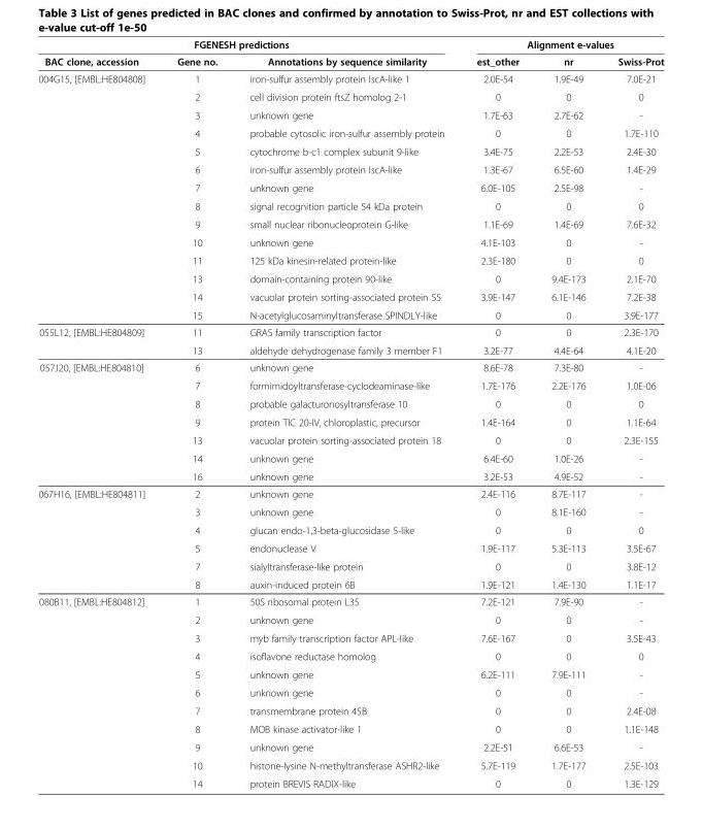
<table><thead><tr><td colspan="3">FGENESH predictions</td><td colspan="3">Alignment e-values</td></tr><tr><td>BAC clone, accession</td><td>Gene no.</td><td>Annotations by sequence similarity</td><td>est_other</td><td>nr</td><td>Swiss-Prot</td></tr></thead><tbody><tr><td rowspan="14">004G15, [EMBL:HE804808]</td><td>1</td><td>iron-sulfur assembly protein IscA-like 1</td><td>2.0E-54</td><td>1.9E-49</td><td>7.0E-21</td></tr><tr><td>2</td><td>cell division protein ftsZ homolog 2-1</td><td>0</td><td>0</td><td>0</td></tr><tr><td>3</td><td>unknown gene</td><td>1.7E-63</td><td>2.7E-62</td><td>-</td></tr><tr><td>4</td><td>probable cytosolic iron-sulfur assembly protein</td><td>0</td><td>0</td><td>1.7E-110</td></tr><tr><td>5</td><td>cytochrome b-c1 complex subunit 9-like</td><td>3.4E-75</td><td>2.2E-53</td><td>2.4E-30</td></tr><tr><td>6</td><td>iron-sulfur assembly protein IscA-like</td><td>1.3E-67</td><td>6.5E-60</td><td>1.4E-29</td></tr><tr><td>7</td><td>unknown gene</td><td>6.0E-105</td><td>2.5E-98</td><td>-</td></tr><tr><td>8</td><td>signal recognition particle 54 kDa protein</td><td>0</td><td>0</td><td>0</td></tr><tr><td>9</td><td>small nuclear ribonucleoprotein G-like</td><td>1.1E-69</td><td>1.4E-69</td><td>7.6E-32</td></tr><tr><td>10</td><td>unknown gene</td><td>4.1E-103</td><td>0</td><td>-</td></tr><tr><td>11</td><td>125 kDa kinesin-related protein-like</td><td>2.3E-180</td><td>0</td><td>0</td></tr><tr><td>13</td><td>domain-containing protein 90-like</td><td>0</td><td>9.4E-173</td><td>2.1E-70</td></tr><tr><td>14</td><td>vacuolar protein sorting-associated protein 55</td><td>3.9E-147</td><td>6.1E-146</td><td>7.2E-38</td></tr><tr><td>15</td><td>N-acetylglucosaminyltransferase SPINDLY-like</td><td>0</td><td>0</td><td>3.9E-177</td></tr><tr><td rowspan="2">055L12, [EMBL:HE804809]</td><td>11</td><td>GRAS family transcription factor</td><td>0</td><td>0</td><td>2.3E-170</td></tr><tr><td>13</td><td>aldehyde dehydrogenase family 3 member F1</td><td>3.2E-77</td><td>4.4E-64</td><td>4.1E-20</td></tr><tr><td rowspan="7">057J20, [EMBL:HE804810]</td><td>6</td><td>unknown gene</td><td>8.6E-78</td><td>7.3E-80</td><td>-</td></tr><tr><td>7</td><td>formimidoyltransferase-cyclodeaminase-like</td><td>1.7E-176</td><td>2.2E-176</td><td>1.0E-06</td></tr><tr><td>8</td><td>probable galacturonosyltransferase 10</td><td>0</td><td>0</td><td>0</td></tr><tr><td>9</td><td>protein TIC 20-IV, chloroplastic, precursor</td><td>1.4E-164</td><td>0</td><td>1.1E-64</td></tr><tr><td>13</td><td>vacuolar protein sorting-associated protein 18</td><td>0</td><td>0</td><td>2.3E-155</td></tr><tr><td>14</td><td>unknown gene</td><td>6.4E-60</td><td>1.0E-26</td><td>-</td></tr><tr><td>16</td><td>unknown gene</td><td>3.2E-53</td><td>4.9E-52</td><td>-</td></tr><tr><td rowspan="6">067H16, [EMBL:HE804811]</td><td>2</td><td>unknown gene</td><td>2.4E-116</td><td>8.7E-117</td><td>-</td></tr><tr><td>3</td><td>unknown gene</td><td>0</td><td>8.1E-160</td><td>-</td></tr><tr><td>4</td><td>glucan endo-1,3-beta-glucosidase 5-like</td><td>0</td><td>0</td><td>0</td></tr><tr><td>5</td><td>endonuclease V</td><td>1.9E-117</td><td>5.3E-113</td><td>3.5E-67</td></tr><tr><td>7</td><td>sialyltransferase-like protein</td><td>0</td><td>0</td><td>3.8E-12</td></tr><tr><td>8</td><td>auxin-induced protein 6B</td><td>1.9E-121</td><td>1.4E-130</td><td>1.1E-17</td></tr><tr><td rowspan="11">080B11, [EMBL:HE804812]</td><td>1</td><td>50S ribosomal protein L35</td><td>7.2E-121</td><td>7.9E-90</td><td>-</td></tr><tr><td>2</td><td>unknown gene</td><td>0</td><td>0</td><td>-</td></tr><tr><td>3</td><td>myb family transcription factor APL-like</td><td>7.6E-167</td><td>0</td><td>3.5E-43</td></tr><tr><td>4</td><td>isoflavone reductase homolog</td><td>0</td><td>0</td><td>0</td></tr><tr><td>5</td><td>unknown gene</td><td>6.2E-111</td><td>7.9E-111</td><td>-</td></tr><tr><td>6</td><td>unknown gene</td><td>0</td><td>0</td><td>-</td></tr><tr><td>7</td><td>transmembrane protein 45B</td><td>0</td><td>0</td><td>2.4E-08</td></tr><tr><td>8</td><td>MOB kinase activator-like 1</td><td>0</td><td>0</td><td>1.1E-148</td></tr><tr><td>9</td><td>unknown gene</td><td>2.2E-51</td><td>6.6E-53</td><td>-</td></tr><tr><td>10</td><td>histone-lysine N-methyltransferase ASHR2-like</td><td>5.7E-119</td><td>1.7E-177</td><td>2.5E-103</td></tr><tr><td>14</td><td>protein BREVIS RADIX-like</td><td>0</td><td>0</td><td>1.3E-129</td></tr></tbody></table>